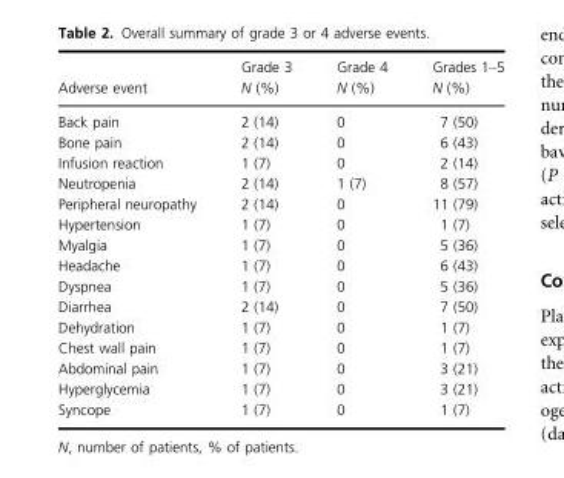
<table><thead><tr><td rowspan="2">Adverse event</td><td rowspan="2">Grade 3 N (%)</td><td rowspan="2">Grade 4 N (%)</td><td rowspan="2">Grades 1–5 N (%)</td></tr><tr></tr></thead><tbody><tr><td>Back pain</td><td>2 (14)</td><td>0</td><td>7 (50)</td></tr><tr><td>Bone pain</td><td>2 (14)</td><td>0</td><td>6 (43)</td></tr><tr><td>Infusion reaction</td><td>1 (7)</td><td>0</td><td>2 (14)</td></tr><tr><td>Neutropenia</td><td>2 (14)</td><td>1 (7)</td><td>8 (57)</td></tr><tr><td>Peripheral neuropathy</td><td>2 (14)</td><td>0</td><td>11 (79)</td></tr><tr><td>Hypertension</td><td>1 (7)</td><td>0</td><td>1 (7)</td></tr><tr><td>Myalgia</td><td>1 (7)</td><td>0</td><td>5 (36)</td></tr><tr><td>Headache</td><td>1 (7)</td><td>0</td><td>6 (43)</td></tr><tr><td>Dyspnea</td><td>1 (7)</td><td>0</td><td>5 (36)</td></tr><tr><td>Diarrhea</td><td>2 (14)</td><td>0</td><td>7 (50)</td></tr><tr><td>Dehydration</td><td>1 (7)</td><td>0</td><td>1 (7)</td></tr><tr><td>Chest wall pain</td><td>1 (7)</td><td>0</td><td>1 (7)</td></tr><tr><td>Abdominal pain</td><td>1 (7)</td><td>0</td><td>3 (21)</td></tr><tr><td>Hyperglycemia</td><td>1 (7)</td><td>0</td><td>3 (21)</td></tr><tr><td>Syncope</td><td>1 (7)</td><td>0</td><td>1 (7)</td></tr></tbody></table>